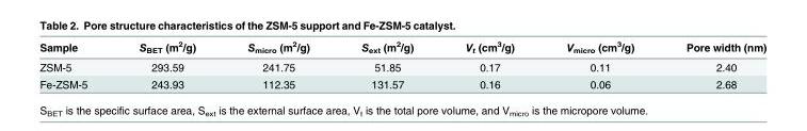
<table><thead><tr><td>Sample</td><td>S<sub>BET</sub> (m<sup>2</sup>/g)</td><td>S<sub>micro</sub> (m<sup>2</sup>/g)</td><td>S<sub>ext</sub> (m<sup>2</sup>/g)</td><td>V<sub>t</sub> (cm<sup>3</sup>/g)</td><td>V<sub>micro</sub> (cm<sup>3</sup>/g)</td><td>Pore width (nm)</td></tr></thead><tbody><tr><td>ZSM-5</td><td>293.59</td><td>241.75</td><td>51.85</td><td>0.17</td><td>0.11</td><td>2.40</td></tr><tr><td>Fe-ZSM-5</td><td>243.93</td><td>112.35</td><td>131.57</td><td>0.16</td><td>0.06</td><td>2.68</td></tr></tbody></table>